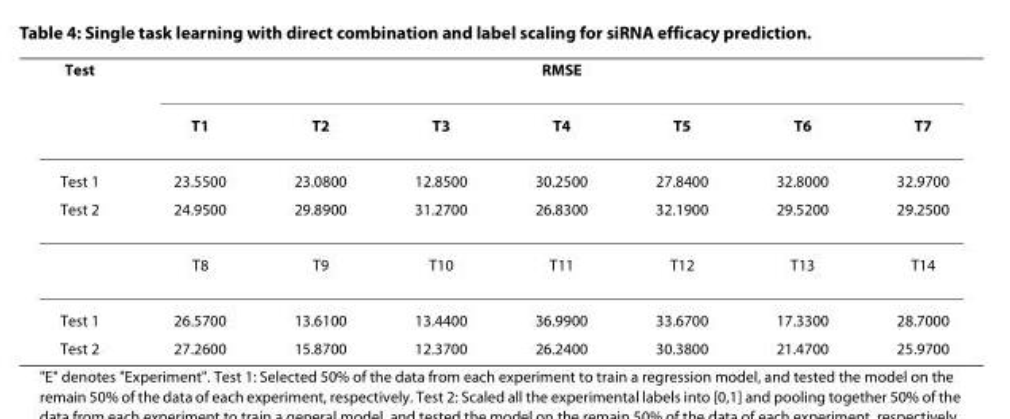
<table><thead><tr><td rowspan="2">Test</td><td colspan="7">RMSE</td></tr><tr><td>T1</td><td>T2</td><td>T3</td><td>T4</td><td>T5</td><td>T6</td><td>T7</td></tr></thead><tbody><tr><td>Test 1</td><td>23.5500</td><td>23.0800</td><td>12.8500</td><td>30.2500</td><td>27.8400</td><td>32.8000</td><td>32.9700</td></tr><tr><td rowspan="2">Test 2</td><td>24.9500</td><td>29.8900</td><td>31.2700</td><td>26.8300</td><td>32.1900</td><td>29.5200</td><td>29.2500</td></tr><tr><td>T8</td><td>T9</td><td>T10</td><td>T11</td><td>T12</td><td>T13</td><td>T14</td></tr><tr><td>Test 1</td><td>26.5700</td><td>13.6100</td><td>13.4400</td><td>36.9900</td><td>33.6700</td><td>17.3300</td><td>28.7000</td></tr><tr><td>Test 2</td><td>27.2600</td><td>15.8700</td><td>12.3700</td><td>26.2400</td><td>30.3800</td><td>21.4700</td><td>25.9700</td></tr></tbody></table>